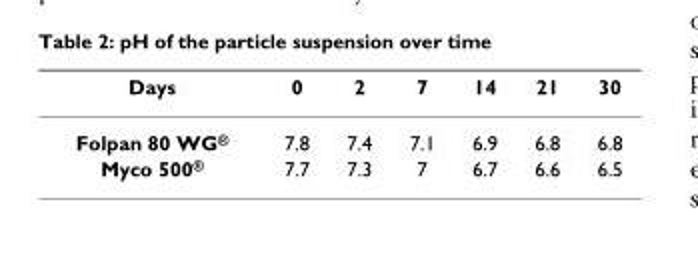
<table><thead><tr><td>Days</td><td>0</td><td>2</td><td>7</td><td>14</td><td>21</td><td>30</td></tr></thead><tbody><tr><td>Folpan 80 WG<sup>®</sup></td><td>7.8</td><td>7.4</td><td>7.1</td><td>6.9</td><td>6.8</td><td>6.8</td></tr><tr><td>Myco 500<sup>®</sup></td><td>7.7</td><td>7.3</td><td>7</td><td>6.7</td><td>6.6</td><td>6.5</td></tr></tbody></table>